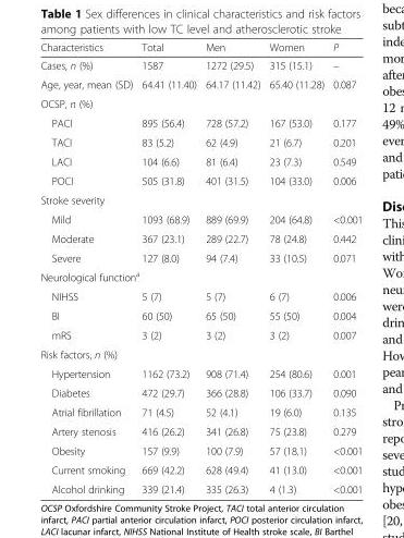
<table><thead><tr><td>Characteristics</td><td>Total</td><td>Men</td><td>Women</td><td>P</td></tr></thead><tbody><tr><td>Cases, n (%)</td><td>1587</td><td>1272 (29.5)</td><td>315 (15.1)</td><td>–</td></tr><tr><td>Age, year, mean (SD)</td><td>64.41 (11.40)</td><td>64.17 (11.42)</td><td>65.40 (11.28)</td><td>0.087</td></tr><tr><td colspan="5">OCSP, n (%)</td></tr><tr><td>PACI</td><td>895 (56.4)</td><td>728 (57.2)</td><td>167 (53.0)</td><td>0.177</td></tr><tr><td>TACI</td><td>83 (5.2)</td><td>62 (4.9)</td><td>21 (6.7)</td><td>0.201</td></tr><tr><td>LACI</td><td>104 (6.6)</td><td>81 (6.4)</td><td>23 (7.3)</td><td>0.549</td></tr><tr><td>POCI</td><td>505 (31.8)</td><td>401 (31.5)</td><td>104 (33.0)</td><td>0.006</td></tr><tr><td colspan="5">Stroke severity</td></tr><tr><td>Mild</td><td>1093 (68.9)</td><td>889 (69.9)</td><td>204 (64.8)</td><td>&lt;0.001</td></tr><tr><td>Moderate</td><td>367 (23.1)</td><td>289 (22.7)</td><td>78 (24.8)</td><td>0.442</td></tr><tr><td>Severe</td><td>127 (8.0)</td><td>94 (7.4)</td><td>33 (10.5)</td><td>0.071</td></tr><tr><td colspan="5">Neurological function<sup>a</sup></td></tr><tr><td>NIHSS</td><td>5 (7)</td><td>5 (7)</td><td>6 (7)</td><td>0.006</td></tr><tr><td>BI</td><td>60 (50)</td><td>65 (50)</td><td>55 (50)</td><td>0.004</td></tr><tr><td>mRS</td><td>3 (2)</td><td>3 (2)</td><td>3 (2)</td><td>0.007</td></tr><tr><td colspan="5">Risk factors, n (%)</td></tr><tr><td>Hypertension</td><td>1162 (73.2)</td><td>908 (71.4)</td><td>254 (80.6)</td><td>0.001</td></tr><tr><td>Diabetes</td><td>472 (29.7)</td><td>366 (28.8)</td><td>106 (33.7)</td><td>0.090</td></tr><tr><td>Atrial fibrillation</td><td>71 (4.5)</td><td>52 (4.1)</td><td>19 (6.0)</td><td>0.135</td></tr><tr><td>Artery stenosis</td><td>416 (26.2)</td><td>341 (26.8)</td><td>75 (23.8)</td><td>0.279</td></tr><tr><td>Obesity</td><td>157 (9.9)</td><td>100 (7.9)</td><td>57 (18.1)</td><td>&lt;0.001</td></tr><tr><td>Current smoking</td><td>669 (42.2)</td><td>628 (49.4)</td><td>41 (13.0)</td><td>&lt;0.001</td></tr><tr><td>Alcohol drinking</td><td>339 (21.4)</td><td>335 (26.3)</td><td>4 (1.3)</td><td>&lt;0.001</td></tr></tbody></table>